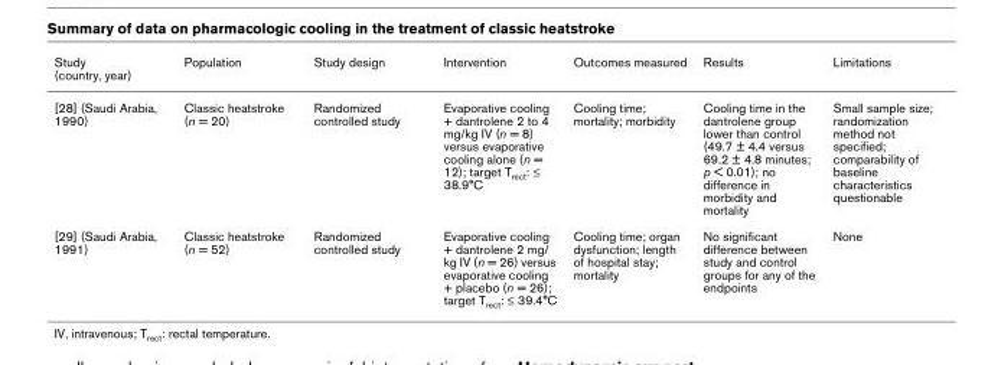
<table><thead><tr><td>Study (country, year)</td><td>Population</td><td>Study design</td><td>Intervention</td><td>Outcomes measured</td><td>Results</td><td>Limitations</td></tr></thead><tbody><tr><td>[28] (Saudi Arabia, 1990)</td><td>Classic heatstroke (n = 20)</td><td>Randomized controlled study</td><td>Evaporative cooling + dantrolene 2 to 4 mg/kg IV (n = 8) versus evaporative cooling alone (n = 12); target T<sub>rect</sub>: ≤ 38.9°C</td><td>Cooling time; mortality; morbidity</td><td>Cooling time in the dantrolene group lower than control (49.7 ± 4.4 versus 69.2 ± 4.8 minutes; p &lt; 0.01); no difference in morbidity and mortality</td><td>Small sample size; randomization method not specified; comparability of baseline characteristics questionable</td></tr><tr><td>[29] (Saudi Arabia, 1991)</td><td>Classic heatstroke (n = 52)</td><td>Randomized controlled study</td><td>Evaporative cooling + dantrolene 2 mg/ kg IV (n = 26) versus evaporative cooling + placebo (n = 26); target T<sub>rect</sub>: ≤ 39.4°C</td><td>Cooling time; organ dysfunction; length of hospital stay; mortality</td><td>No significant difference between study and control groups for any of the endpoints</td><td>None</td></tr></tbody></table>